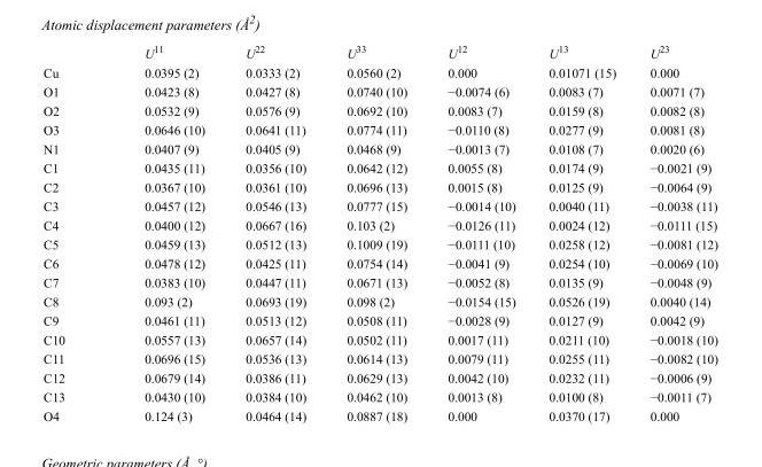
<table><thead><tr><td></td><td>U<sup>11</sup></td><td>U<sup>22</sup></td><td>U<sup>33</sup></td><td>U<sup>12</sup></td><td>U<sup>13</sup></td><td>U<sup>23</sup></td></tr></thead><tbody><tr><td>Cu</td><td>0.0395 (2)</td><td>0.0333 (2)</td><td>0.0560 (2)</td><td>0.000</td><td>0.01071 (15)</td><td>0.000</td></tr><tr><td>O1</td><td>0.0423 (8)</td><td>0.0427 (8)</td><td>0.0740 (10)</td><td>−0.0074 (6)</td><td>0.0083 (7)</td><td>0.0071 (7)</td></tr><tr><td>O2</td><td>0.0532 (9)</td><td>0.0576 (9)</td><td>0.0692 (10)</td><td>0.0083 (7)</td><td>0.0159 (8)</td><td>0.0082 (8)</td></tr><tr><td>O3</td><td>0.0646 (10)</td><td>0.0641 (11)</td><td>0.0774 (11)</td><td>−0.0110 (8)</td><td>0.0277 (9)</td><td>0.0081 (8)</td></tr><tr><td>N1</td><td>0.0407 (9)</td><td>0.0405 (9)</td><td>0.0468 (9)</td><td>−0.0013 (7)</td><td>0.0108 (7)</td><td>0.0020 (6)</td></tr><tr><td>C1</td><td>0.0435 (11)</td><td>0.0356 (10)</td><td>0.0642 (12)</td><td>0.0055 (8)</td><td>0.0174 (9)</td><td>−0.0021 (9)</td></tr><tr><td>C2</td><td>0.0367 (10)</td><td>0.0361 (10)</td><td>0.0696 (13)</td><td>0.0015 (8)</td><td>0.0125 (9)</td><td>−0.0064 (9)</td></tr><tr><td>C3</td><td>0.0457 (12)</td><td>0.0546 (13)</td><td>0.0777 (15)</td><td>−0.0014 (10)</td><td>0.0040 (11)</td><td>−0.0038 (11)</td></tr><tr><td>C4</td><td>0.0400 (12)</td><td>0.0667 (16)</td><td>0.103 (2)</td><td>−0.0126 (11)</td><td>0.0024 (12)</td><td>−0.0111 (15)</td></tr><tr><td>C5</td><td>0.0459 (13)</td><td>0.0512 (13)</td><td>0.1009 (19)</td><td>−0.0111 (10)</td><td>0.0258 (12)</td><td>−0.0081 (12)</td></tr><tr><td>C6</td><td>0.0478 (12)</td><td>0.0425 (11)</td><td>0.0754 (14)</td><td>−0.0041 (9)</td><td>0.0254 (10)</td><td>−0.0069 (10)</td></tr><tr><td>C7</td><td>0.0383 (10)</td><td>0.0447 (11)</td><td>0.0671 (13)</td><td>−0.0052 (8)</td><td>0.0135 (9)</td><td>−0.0048 (9)</td></tr><tr><td>C8</td><td>0.093 (2)</td><td>0.0693 (19)</td><td>0.098 (2)</td><td>−0.0154 (15)</td><td>0.0526 (19)</td><td>0.0040 (14)</td></tr><tr><td>C9</td><td>0.0461 (11)</td><td>0.0513 (12)</td><td>0.0508 (11)</td><td>−0.0028 (9)</td><td>0.0127 (9)</td><td>0.0042 (9)</td></tr><tr><td>C10</td><td>0.0557 (13)</td><td>0.0657 (14)</td><td>0.0502 (11)</td><td>0.0017 (11)</td><td>0.0211 (10)</td><td>−0.0018 (10)</td></tr><tr><td>C11</td><td>0.0696 (15)</td><td>0.0536 (13)</td><td>0.0614 (13)</td><td>0.0079 (11)</td><td>0.0255 (11)</td><td>−0.0082 (10)</td></tr><tr><td>C12</td><td>0.0679 (14)</td><td>0.0386 (11)</td><td>0.0629 (13)</td><td>0.0042 (10)</td><td>0.0232 (11)</td><td>−0.0006 (9)</td></tr><tr><td>C13</td><td>0.0430 (10)</td><td>0.0384 (10)</td><td>0.0462 (10)</td><td>0.0013 (8)</td><td>0.0100 (8)</td><td>−0.0011 (7)</td></tr><tr><td>O4</td><td>0.124 (3)</td><td>0.0464 (14)</td><td>0.0887 (18)</td><td>0.000</td><td>0.0370 (17)</td><td>0.000</td></tr></tbody></table>